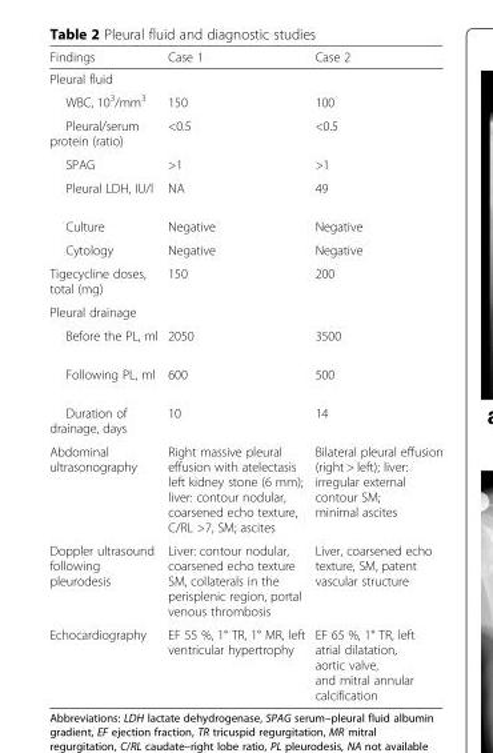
<table><thead><tr><td>Findings</td><td>Case 1</td><td>Case 2</td></tr></thead><tbody><tr><td colspan="3">Pleural fluid</td></tr><tr><td>WBC, 10<sup>3</sup>/mm<sup>3</sup></td><td>150</td><td>100</td></tr><tr><td>Pleural/serum protein (ratio)</td><td>&lt;0.5</td><td>&lt;0.5</td></tr><tr><td>SPAG</td><td>&gt;1</td><td>&gt;1</td></tr><tr><td>Pleural LDH, IU/l</td><td>NA</td><td>49</td></tr><tr><td>Culture</td><td>Negative</td><td>Negative</td></tr><tr><td>Cytology</td><td>Negative</td><td>Negative</td></tr><tr><td>Tigecycline doses, total (mg)</td><td>150</td><td>200</td></tr><tr><td colspan="3">Pleural drainage</td></tr><tr><td>Before the PL, ml</td><td>2050</td><td>3500</td></tr><tr><td>Following PL, ml</td><td>600</td><td>500</td></tr><tr><td>Duration of drainage, days</td><td>10</td><td>14</td></tr><tr><td>Abdominal ultrasonography</td><td>Right massive pleural effusion with atelectasis left kidney stone (6 mm); liver: contour nodular, coarsened echo texture, C/RL &gt;7, SM; ascites</td><td>Bilateral pleural effusion (right &gt; left); liver: irregular external contour SM; minimal ascites</td></tr><tr><td>Doppler ultrasound following pleurodesis</td><td>Liver: contour nodular, coarsened echo texture SM, collaterals in the perisplenic region, portal venous thrombosis</td><td>Liver, coarsened echo texture, SM, patent vascular structure</td></tr><tr><td>Echocardiography</td><td>EF 55 %, 1° TR, 1° MR, left ventricular hypertrophy</td><td>EF 65 %, 1° TR, left atrial dilatation, aortic valve, and mitral annular calcification</td></tr></tbody></table>